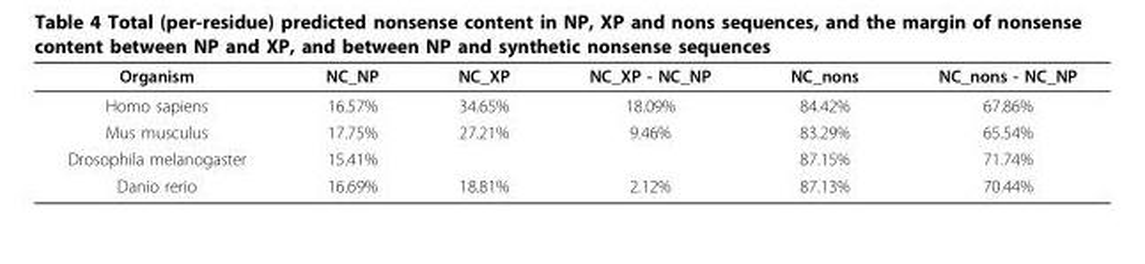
<table><thead><tr><td>Organism</td><td>NC_NP</td><td>NC_XP</td><td>NC_XP - NC_NP</td><td>NC_nons</td><td>NC_nons - NC_NP</td></tr></thead><tbody><tr><td>Homo sapiens</td><td>16.57%</td><td>34.65%</td><td>18.09%</td><td>84.42%</td><td>67.86%</td></tr><tr><td>Mus musculus</td><td>17.75%</td><td>27.21%</td><td>9.46%</td><td>83.29%</td><td>65.54%</td></tr><tr><td>Drosophila melanogaster</td><td>15.41%</td><td></td><td></td><td>87.15%</td><td>71.74%</td></tr><tr><td>Danio rerio</td><td>16.69%</td><td>18.81%</td><td>2.12%</td><td>87.13%</td><td>70.44%</td></tr></tbody></table>